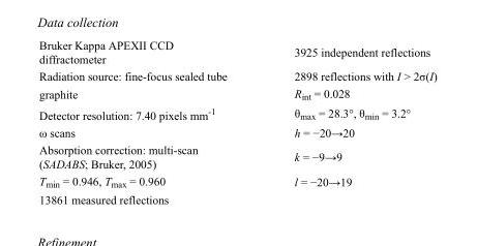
<table><tbody><tr><td>Bruker Kappa APEXII CCD diffractometer</td><td>3925 independent reflections</td></tr><tr><td>Radiation source: fine-focus sealed tube</td><td>2898 reflections with I &gt; 2σ(I)</td></tr><tr><td>graphite</td><td>R<sub>int</sub> = 0.028</td></tr><tr><td>Detector resolution: 7.40 pixels mm<sup>-1</sup></td><td>θ<sub>max</sub> = 28.3°, θ<sub>min</sub> = 3.2°</td></tr><tr><td>ω scans</td><td>h = −20→20</td></tr><tr><td>Absorption correction: multi-scan (SADABS; Bruker, 2005)</td><td>k = −9→9</td></tr><tr><td>T<sub>min</sub> = 0.946, T<sub>max</sub> = 0.960</td><td>l = −20→19</td></tr><tr><td>13861 measured reflections</td><td></td></tr></tbody></table>